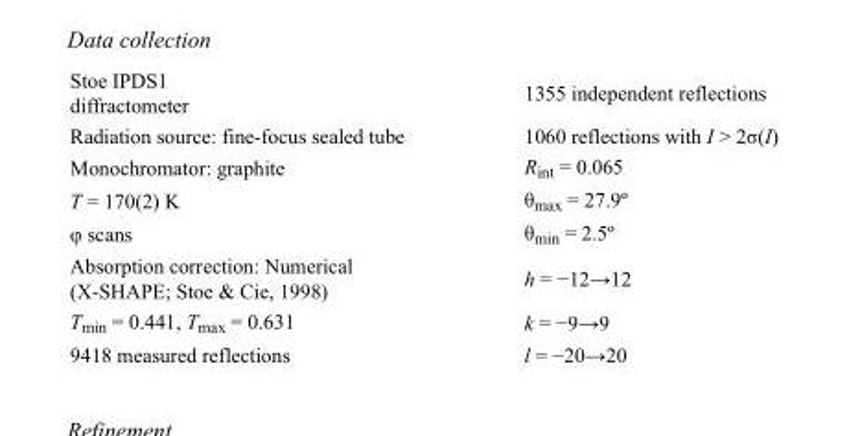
<table><tbody><tr><td>Stoe IPDS1 diffractometer</td><td>1355 independent reflections</td></tr><tr><td>Radiation source: fine-focus sealed tube</td><td>1060 reflections with I &gt; 2σ(I)</td></tr><tr><td>Monochromator: graphite</td><td>R<sub>int</sub> = 0.065</td></tr><tr><td>T = 170(2) K</td><td>θ<sub>max</sub> = 27.9º</td></tr><tr><td>φ scans</td><td>θ<sub>min</sub> = 2.5º</td></tr><tr><td>Absorption correction: Numerical (X-SHAPE; Stoe &amp; Cie, 1998)</td><td>h = −12→12</td></tr><tr><td>T<sub>min</sub> = 0.441, T<sub>max</sub> = 0.631</td><td>k = −9→9</td></tr><tr><td>9418 measured reflections</td><td>l = −20→20</td></tr></tbody></table>